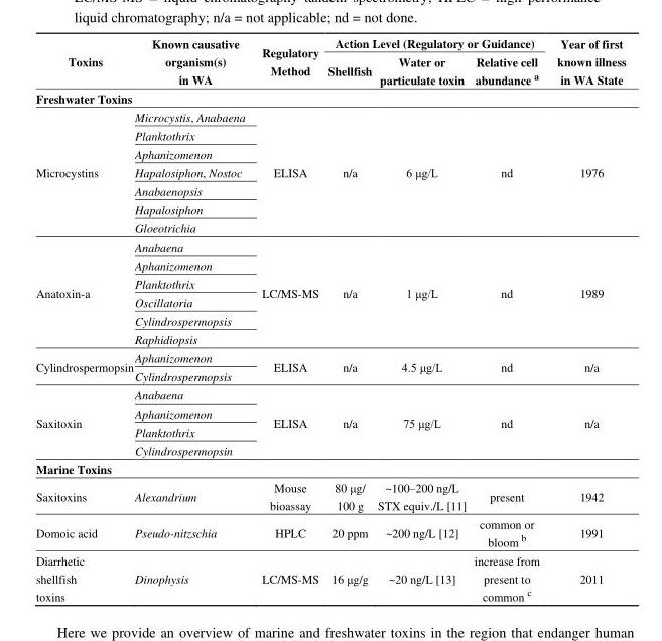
<table><thead><tr><td rowspan="2">Toxins</td><td rowspan="2">Known causative organism(s) in WA</td><td rowspan="2">Regulatory Method</td><td colspan="3">Action Level (Regulatory or Guidance)</td><td rowspan="2">Year of first known illness in WA State</td></tr><tr><td>Shellfish</td><td>Water or particulate toxin</td><td>Relative cell abundance <sup>a</sup></td></tr></thead><tbody><tr><td colspan="7">Freshwater Toxins</td></tr><tr><td rowspan="7">Microcystins</td><td>Microcystis, Anabaena</td><td rowspan="7">ELISA</td><td rowspan="7">n/a</td><td rowspan="7">6 μg/L</td><td rowspan="7">nd</td><td rowspan="7">1976</td></tr><tr><td>Planktothrix</td></tr><tr><td>Aphanizomenon</td></tr><tr><td>Hapalosiphon, Nostoc</td></tr><tr><td>Anabaenopsis</td></tr><tr><td>Hapalosiphon</td></tr><tr><td>Gloeotrichia</td></tr><tr><td rowspan="6">Anatoxin-a</td><td>Anabaena</td><td rowspan="6">LC/MS-MS</td><td rowspan="6">n/a</td><td rowspan="6">1 μg/L</td><td rowspan="6">nd</td><td rowspan="6">1989</td></tr><tr><td>Aphanizomenon</td></tr><tr><td>Planktothrix</td></tr><tr><td>Oscillatoria</td></tr><tr><td>Cylindrospermopsis</td></tr><tr><td>Raphidiopsis</td></tr><tr><td rowspan="2">Cylindrospermopsin</td><td>Aphanizomenon</td><td rowspan="2">ELISA</td><td rowspan="2">n/a</td><td rowspan="2">4.5 μg/L</td><td rowspan="2">nd</td><td rowspan="2">n/a</td></tr><tr><td>Cylindrospermopsis</td></tr><tr><td rowspan="4">Saxitoxin</td><td>Anabaena</td><td rowspan="4">ELISA</td><td rowspan="4">n/a</td><td rowspan="4">75 μg/L</td><td rowspan="4">nd</td><td rowspan="4">n/a</td></tr><tr><td>Aphanizomenon</td></tr><tr><td>Planktothrix</td></tr><tr><td>Cylindrospermopsin</td></tr><tr><td colspan="7">Marine Toxins</td></tr><tr><td>Saxitoxins</td><td>Alexandrium</td><td>Mouse bioassay</td><td>80 μg/ 100 g</td><td>~100–200 ng/L STX equiv./L [11]</td><td>present</td><td>1942</td></tr><tr><td>Domoic acid</td><td>Pseudo-nitzschia</td><td>HPLC</td><td>20 ppm</td><td>~200 ng/L [12]</td><td>common or bloom <sup>b</sup></td><td>1991</td></tr><tr><td>Diarrhetic shellfish toxins</td><td>Dinophysis</td><td>LC/MS-MS</td><td>16 μg/g</td><td>~20 ng/L [13]</td><td>increase from present to common <sup>c</sup></td><td>2011</td></tr></tbody></table>